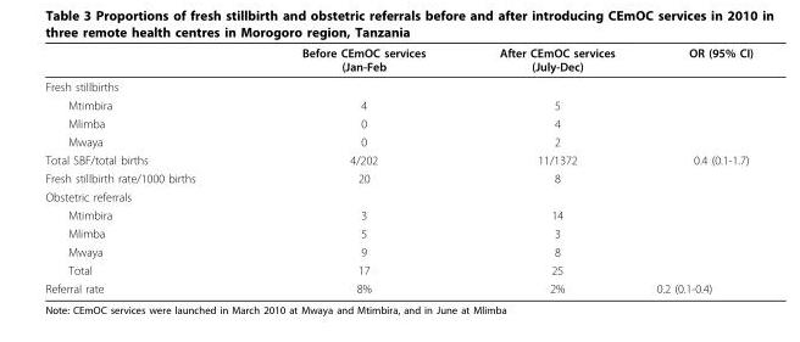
<table><thead><tr><td></td><td>Before CEmOC services (Jan-Feb</td><td>After CEmOC services (July-Dec)</td><td>OR (95% CI)</td></tr></thead><tbody><tr><td colspan="4">Fresh stillbirths</td></tr><tr><td>Mtimbira</td><td>4</td><td>5</td><td></td></tr><tr><td>Mlimba</td><td>0</td><td>4</td><td></td></tr><tr><td>Mwaya</td><td>0</td><td>2</td><td></td></tr><tr><td>Total SBF/total births</td><td>4/202</td><td>11/1372</td><td>0.4 (0.1-1.7)</td></tr><tr><td>Fresh stillbirth rate/1000 births</td><td>20</td><td>8</td><td></td></tr><tr><td colspan="4">Obstetric referrals</td></tr><tr><td>Mtimbira</td><td>3</td><td>14</td><td></td></tr><tr><td>Mlimba</td><td>5</td><td>3</td><td></td></tr><tr><td>Mwaya</td><td>9</td><td>8</td><td></td></tr><tr><td>Total</td><td>17</td><td>25</td><td></td></tr><tr><td>Referral rate</td><td>8%</td><td>2%</td><td>0.2 (0.1-0.4)</td></tr></tbody></table>